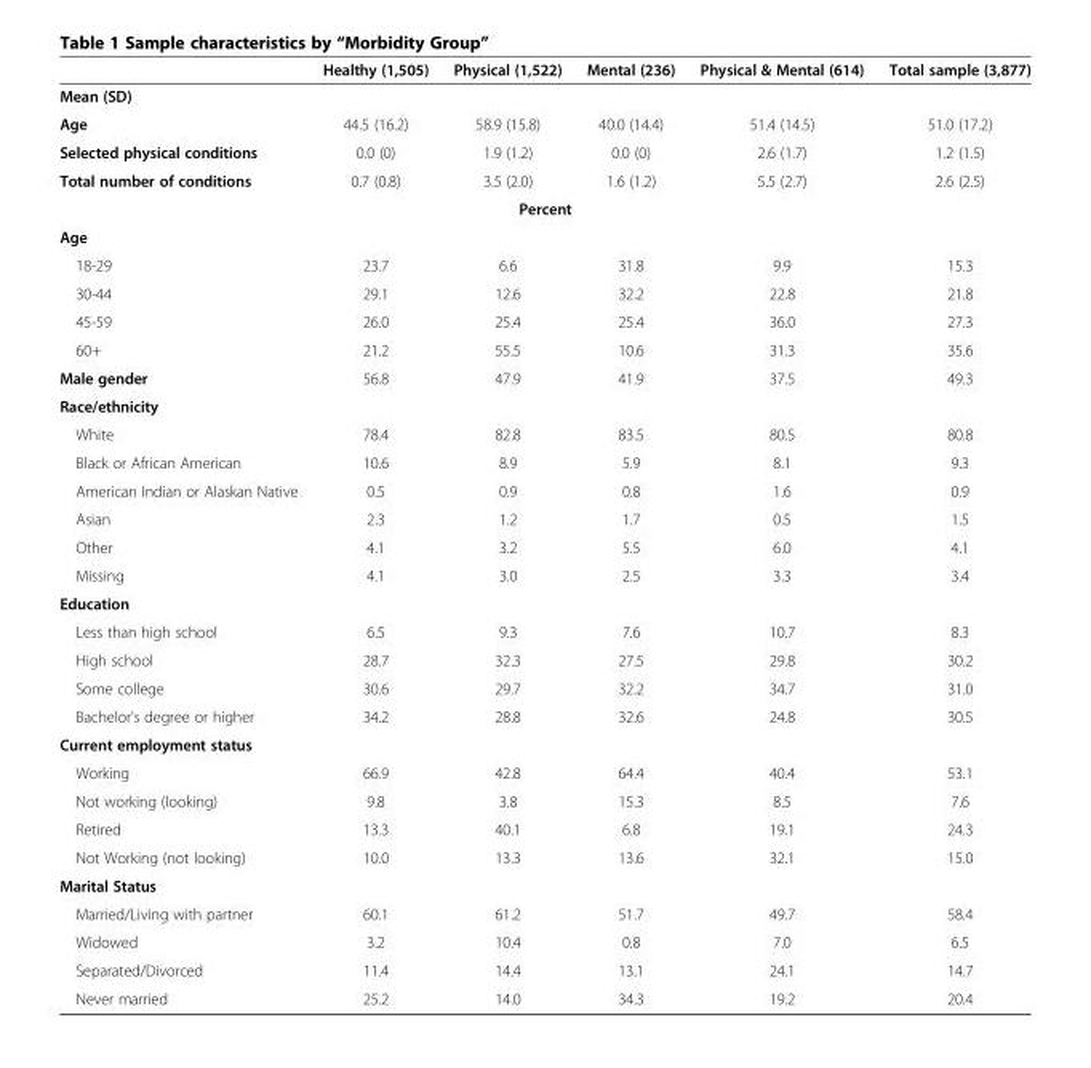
<table><thead><tr><td></td><td>Healthy (1,505)</td><td>Physical (1,522)</td><td>Mental (236)</td><td>Physical &amp; Mental (614)</td><td>Total sample (3,877)</td></tr></thead><tbody><tr><td colspan="6">Mean (SD)</td></tr><tr><td>Age</td><td>44.5 (16.2)</td><td>58.9 (15.8)</td><td>40.0 (14.4)</td><td>51.4 (14.5)</td><td>51.0 (17.2)</td></tr><tr><td>Selected physical conditions</td><td>0.0 (0)</td><td>1.9 (1.2)</td><td>0.0 (0)</td><td>2.6 (1.7)</td><td>1.2 (1.5)</td></tr><tr><td>Total number of conditions</td><td>0.7 (0.8)</td><td>3.5 (2.0)</td><td>1.6 (1.2)</td><td>5.5 (2.7)</td><td>2.6 (2.5)</td></tr><tr><td colspan="6">Percent</td></tr><tr><td colspan="6">Age</td></tr><tr><td>18-29</td><td>23.7</td><td>6.6</td><td>31.8</td><td>9.9</td><td>15.3</td></tr><tr><td>30-44</td><td>29.1</td><td>12.6</td><td>32.2</td><td>22.8</td><td>21.8</td></tr><tr><td>45-59</td><td>26.0</td><td>25.4</td><td>25.4</td><td>36.0</td><td>27.3</td></tr><tr><td>60+</td><td>21.2</td><td>55.5</td><td>10.6</td><td>31.3</td><td>35.6</td></tr><tr><td>Male gender</td><td>56.8</td><td>47.9</td><td>41.9</td><td>37.5</td><td>49.3</td></tr><tr><td colspan="6">Race/ethnicity</td></tr><tr><td>White</td><td>78.4</td><td>82.8</td><td>83.5</td><td>80.5</td><td>80.8</td></tr><tr><td>Black or African American</td><td>10.6</td><td>8.9</td><td>5.9</td><td>8.1</td><td>9.3</td></tr><tr><td>American Indian or Alaskan Native</td><td>0.5</td><td>0.9</td><td>0.8</td><td>1.6</td><td>0.9</td></tr><tr><td>Asian</td><td>2.3</td><td>1.2</td><td>1.7</td><td>0.5</td><td>1.5</td></tr><tr><td>Other</td><td>4.1</td><td>3.2</td><td>5.5</td><td>6.0</td><td>4.1</td></tr><tr><td>Missing</td><td>4.1</td><td>3.0</td><td>2.5</td><td>3.3</td><td>3.4</td></tr><tr><td colspan="6">Education</td></tr><tr><td>Less than high school</td><td>6.5</td><td>9.3</td><td>7.6</td><td>10.7</td><td>8.3</td></tr><tr><td>High school</td><td>28.7</td><td>32.3</td><td>27.5</td><td>29.8</td><td>30.2</td></tr><tr><td>Some college</td><td>30.6</td><td>29.7</td><td>32.2</td><td>34.7</td><td>31.0</td></tr><tr><td>Bachelor&#x27;s degree or higher</td><td>34.2</td><td>28.8</td><td>32.6</td><td>24.8</td><td>30.5</td></tr><tr><td colspan="6">Current employment status</td></tr><tr><td>Working</td><td>66.9</td><td>42.8</td><td>64.4</td><td>40.4</td><td>53.1</td></tr><tr><td>Not working (looking)</td><td>9.8</td><td>3.8</td><td>15.3</td><td>8.5</td><td>7.6</td></tr><tr><td>Retired</td><td>13.3</td><td>40.1</td><td>6.8</td><td>19.1</td><td>24.3</td></tr><tr><td>Not Working (not looking)</td><td>10.0</td><td>13.3</td><td>13.6</td><td>32.1</td><td>15.0</td></tr><tr><td colspan="6">Marital Status</td></tr><tr><td>Married/Living with partner</td><td>60.1</td><td>61.2</td><td>51.7</td><td>49.7</td><td>58.4</td></tr><tr><td>Widowed</td><td>3.2</td><td>10.4</td><td>0.8</td><td>7.0</td><td>6.5</td></tr><tr><td>Separated/Divorced</td><td>11.4</td><td>14.4</td><td>13.1</td><td>24.1</td><td>14.7</td></tr><tr><td>Never married</td><td>25.2</td><td>14.0</td><td>34.3</td><td>19.2</td><td>20.4</td></tr></tbody></table>